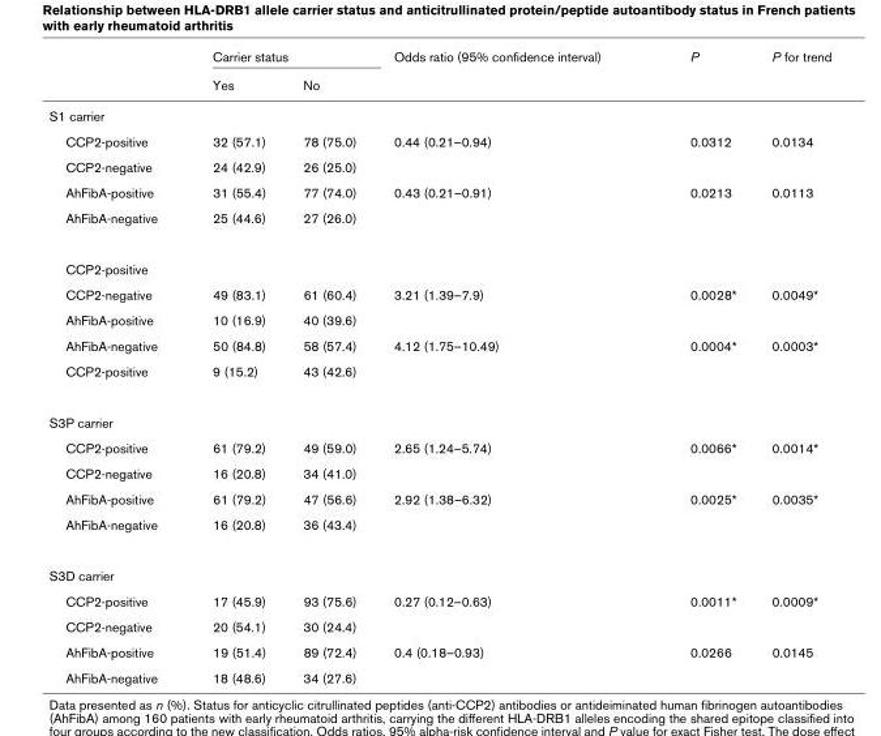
<table><thead><tr><td rowspan="2"></td><td colspan="2">Carrier status</td><td rowspan="2">Odds ratio (95% confidence interval)</td><td rowspan="2">P</td><td rowspan="2">P for trend</td></tr><tr><td>Yes</td><td>No</td></tr></thead><tbody><tr><td colspan="6">S1 carrier</td></tr><tr><td>CCP2-positive</td><td>32 (57.1)</td><td>78 (75.0)</td><td>0.44 (0.21–0.94)</td><td>0.0312</td><td>0.0134</td></tr><tr><td>CCP2-negative</td><td>24 (42.9)</td><td>26 (25.0)</td><td></td><td></td><td></td></tr><tr><td>AhFibA-positive</td><td>31 (55.4)</td><td>77 (74.0)</td><td>0.43 (0.21–0.91)</td><td>0.0213</td><td>0.0113</td></tr><tr><td>AhFibA-negative</td><td>25 (44.6)</td><td>27 (26.0)</td><td></td><td></td><td></td></tr><tr><td colspan="6">CCP2-positive</td></tr><tr><td>CCP2-negative</td><td>49 (83.1)</td><td>61 (60.4)</td><td>3.21 (1.39–7.9)</td><td>0.0028*</td><td>0.0049*</td></tr><tr><td>AhFibA-positive</td><td>10 (16.9)</td><td>40 (39.6)</td><td></td><td></td><td></td></tr><tr><td>AhFibA-negative</td><td>50 (84.8)</td><td>58 (57.4)</td><td>4.12 (1.75–10.49)</td><td>0.0004*</td><td>0.0003*</td></tr><tr><td>CCP2-positive</td><td>9 (15.2)</td><td>43 (42.6)</td><td></td><td></td><td></td></tr><tr><td colspan="6">S3P carrier</td></tr><tr><td>CCP2-positive</td><td>61 (79.2)</td><td>49 (59.0)</td><td>2.65 (1.24–5.74)</td><td>0.0066*</td><td>0.0014*</td></tr><tr><td>CCP2-negative</td><td>16 (20.8)</td><td>34 (41.0)</td><td></td><td></td><td></td></tr><tr><td>AhFibA-positive</td><td>61 (79.2)</td><td>47 (56.6)</td><td>2.92 (1.38–6.32)</td><td>0.0025*</td><td>0.0035*</td></tr><tr><td>AhFibA-negative</td><td>16 (20.8)</td><td>36 (43.4)</td><td></td><td></td><td></td></tr><tr><td colspan="6">S3D carrier</td></tr><tr><td>CCP2-positive</td><td>17 (45.9)</td><td>93 (75.6)</td><td>0.27 (0.12–0.63)</td><td>0.0011*</td><td>0.0009*</td></tr><tr><td>CCP2-negative</td><td>20 (54.1)</td><td>30 (24.4)</td><td></td><td></td><td></td></tr><tr><td>AhFibA-positive</td><td>19 (51.4)</td><td>89 (72.4)</td><td>0.4 (0.18–0.93)</td><td>0.0266</td><td>0.0145</td></tr><tr><td>AhFibA-negative</td><td>18 (48.6)</td><td>34 (27.6)</td><td></td><td></td><td></td></tr></tbody></table>